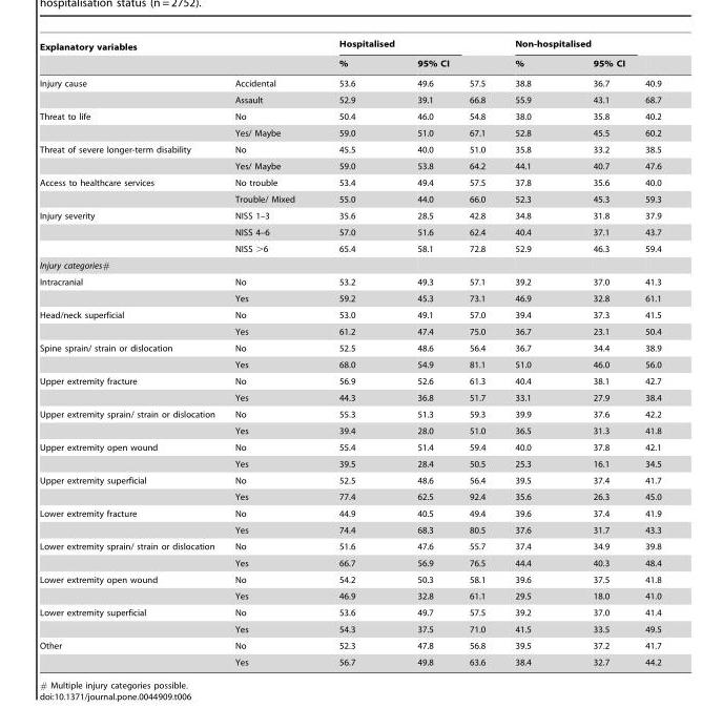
<table><thead><tr><td colspan="2">Explanatory variables</td><td colspan="2">Hospitalised</td><td rowspan="2"></td><td colspan="2">Non-hospitalised</td><td rowspan="2"></td></tr><tr><td></td><td></td><td>%</td><td>95% CI</td><td>%</td><td>95% CI</td></tr></thead><tbody><tr><td rowspan="2">Injury cause</td><td>Accidental</td><td>53.6</td><td>49.6</td><td>57.5</td><td>38.8</td><td>36.7</td><td>40.9</td></tr><tr><td>Assault</td><td>52.9</td><td>39.1</td><td>66.8</td><td>55.9</td><td>43.1</td><td>68.7</td></tr><tr><td rowspan="2">Threat to life</td><td>No</td><td>50.4</td><td>46.0</td><td>54.8</td><td>38.0</td><td>35.8</td><td>40.2</td></tr><tr><td>Yes/ Maybe</td><td>59.0</td><td>51.0</td><td>67.1</td><td>52.8</td><td>45.5</td><td>60.2</td></tr><tr><td rowspan="2">Threat of severe longer-term disability</td><td>No</td><td>45.5</td><td>40.0</td><td>51.0</td><td>35.8</td><td>33.2</td><td>38.5</td></tr><tr><td>Yes/ Maybe</td><td>59.0</td><td>53.8</td><td>64.2</td><td>44.1</td><td>40.7</td><td>47.6</td></tr><tr><td rowspan="2">Access to healthcare services</td><td>No trouble</td><td>53.4</td><td>49.4</td><td>57.5</td><td>37.8</td><td>35.6</td><td>40.0</td></tr><tr><td>Trouble/ Mixed</td><td>55.0</td><td>44.0</td><td>66.0</td><td>52.3</td><td>45.3</td><td>59.3</td></tr><tr><td rowspan="3">Injury severity</td><td>NISS 1–3</td><td>35.6</td><td>28.5</td><td>42.8</td><td>34.8</td><td>31.8</td><td>37.9</td></tr><tr><td>NISS 4–6</td><td>57.0</td><td>51.6</td><td>62.4</td><td>40.4</td><td>37.1</td><td>43.7</td></tr><tr><td>NISS &gt;6</td><td>65.4</td><td>58.1</td><td>72.8</td><td>52.9</td><td>46.3</td><td>59.4</td></tr><tr><td colspan="8">Injury categories#</td></tr><tr><td rowspan="2">Intracranial</td><td>No</td><td>53.2</td><td>49.3</td><td>57.1</td><td>39.2</td><td>37.0</td><td>41.3</td></tr><tr><td>Yes</td><td>59.2</td><td>45.3</td><td>73.1</td><td>46.9</td><td>32.8</td><td>61.1</td></tr><tr><td rowspan="2">Head/neck superficial</td><td>No</td><td>53.0</td><td>49.1</td><td>57.0</td><td>39.4</td><td>37.3</td><td>41.5</td></tr><tr><td>Yes</td><td>61.2</td><td>47.4</td><td>75.0</td><td>36.7</td><td>23.1</td><td>50.4</td></tr><tr><td rowspan="2">Spine sprain/ strain or dislocation</td><td>No</td><td>52.5</td><td>48.6</td><td>56.4</td><td>36.7</td><td>34.4</td><td>38.9</td></tr><tr><td>Yes</td><td>68.0</td><td>54.9</td><td>81.1</td><td>51.0</td><td>46.0</td><td>56.0</td></tr><tr><td rowspan="2">Upper extremity fracture</td><td>No</td><td>56.9</td><td>52.6</td><td>61.3</td><td>40.4</td><td>38.1</td><td>42.7</td></tr><tr><td>Yes</td><td>44.3</td><td>36.8</td><td>51.7</td><td>33.1</td><td>27.9</td><td>38.4</td></tr><tr><td rowspan="2">Upper extremity sprain/ strain or dislocation</td><td>No</td><td>55.3</td><td>51.3</td><td>59.3</td><td>39.9</td><td>37.6</td><td>42.2</td></tr><tr><td>Yes</td><td>39.4</td><td>28.0</td><td>51.0</td><td>36.5</td><td>31.3</td><td>41.8</td></tr><tr><td rowspan="2">Upper extremity open wound</td><td>No</td><td>55.4</td><td>51.4</td><td>59.4</td><td>40.0</td><td>37.8</td><td>42.1</td></tr><tr><td>Yes</td><td>39.5</td><td>28.4</td><td>50.5</td><td>25.3</td><td>16.1</td><td>34.5</td></tr><tr><td rowspan="2">Upper extremity superficial</td><td>No</td><td>52.5</td><td>48.6</td><td>56.4</td><td>39.5</td><td>37.4</td><td>41.7</td></tr><tr><td>Yes</td><td>77.4</td><td>62.5</td><td>92.4</td><td>35.6</td><td>26.3</td><td>45.0</td></tr><tr><td rowspan="2">Lower extremity fracture</td><td>No</td><td>44.9</td><td>40.5</td><td>49.4</td><td>39.6</td><td>37.4</td><td>41.9</td></tr><tr><td>Yes</td><td>74.4</td><td>68.3</td><td>80.5</td><td>37.6</td><td>31.7</td><td>43.3</td></tr><tr><td rowspan="2">Lower extremity sprain/ strain or dislocation</td><td>No</td><td>51.6</td><td>47.6</td><td>55.7</td><td>37.4</td><td>34.9</td><td>39.8</td></tr><tr><td>Yes</td><td>66.7</td><td>56.9</td><td>76.5</td><td>44.4</td><td>40.3</td><td>48.4</td></tr><tr><td rowspan="2">Lower extremity open wound</td><td>No</td><td>54.2</td><td>50.3</td><td>58.1</td><td>39.6</td><td>37.5</td><td>41.8</td></tr><tr><td>Yes</td><td>46.9</td><td>32.8</td><td>61.1</td><td>29.5</td><td>18.0</td><td>41.0</td></tr><tr><td rowspan="2">Lower extremity superficial</td><td>No</td><td>53.6</td><td>49.7</td><td>57.5</td><td>39.2</td><td>37.0</td><td>41.4</td></tr><tr><td>Yes</td><td>54.3</td><td>37.5</td><td>71.0</td><td>41.5</td><td>33.5</td><td>49.5</td></tr><tr><td rowspan="2">Other</td><td>No</td><td>52.3</td><td>47.8</td><td>56.8</td><td>39.5</td><td>37.2</td><td>41.7</td></tr><tr><td>Yes</td><td>56.7</td><td>49.8</td><td>63.6</td><td>38.4</td><td>32.7</td><td>44.2</td></tr></tbody></table>